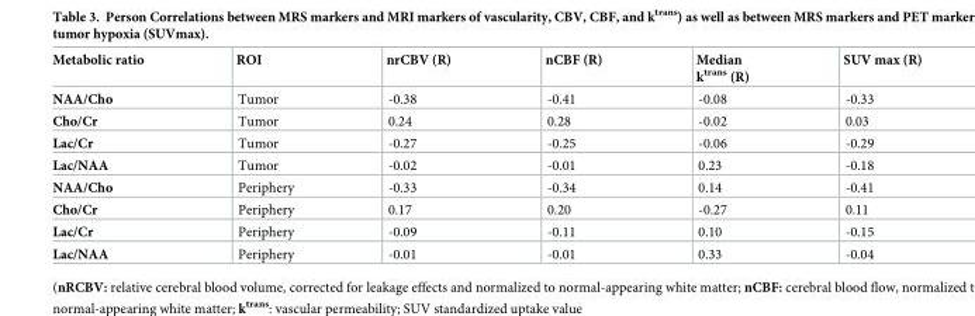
<table><thead><tr><td>Metabolic ratio</td><td>ROI</td><td>nrCBV (R)</td><td>nCBF (R)</td><td>Median k<sup>trans</sup> (R)</td><td>SUV max (R)</td></tr></thead><tbody><tr><td>NAA/Cho</td><td>Tumor</td><td>-0.38</td><td>-0.41</td><td>-0.08</td><td>-0.33</td></tr><tr><td>Cho/Cr</td><td>Tumor</td><td>0.24</td><td>0.28</td><td>-0.02</td><td>0.03</td></tr><tr><td>Lac/Cr</td><td>Tumor</td><td>-0.27</td><td>-0.25</td><td>-0.06</td><td>-0.29</td></tr><tr><td>Lac/NAA</td><td>Tumor</td><td>-0.02</td><td>-0.01</td><td>0.23</td><td>-0.18</td></tr><tr><td>NAA/Cho</td><td>Periphery</td><td>-0.33</td><td>-0.34</td><td>0.14</td><td>-0.41</td></tr><tr><td>Cho/Cr</td><td>Periphery</td><td>0.17</td><td>0.20</td><td>-0.27</td><td>0.11</td></tr><tr><td>Lac/Cr</td><td>Periphery</td><td>-0.09</td><td>-0.11</td><td>0.10</td><td>-0.15</td></tr><tr><td>Lac/NAA</td><td>Periphery</td><td>-0.01</td><td>-0.01</td><td>0.33</td><td>-0.04</td></tr></tbody></table>